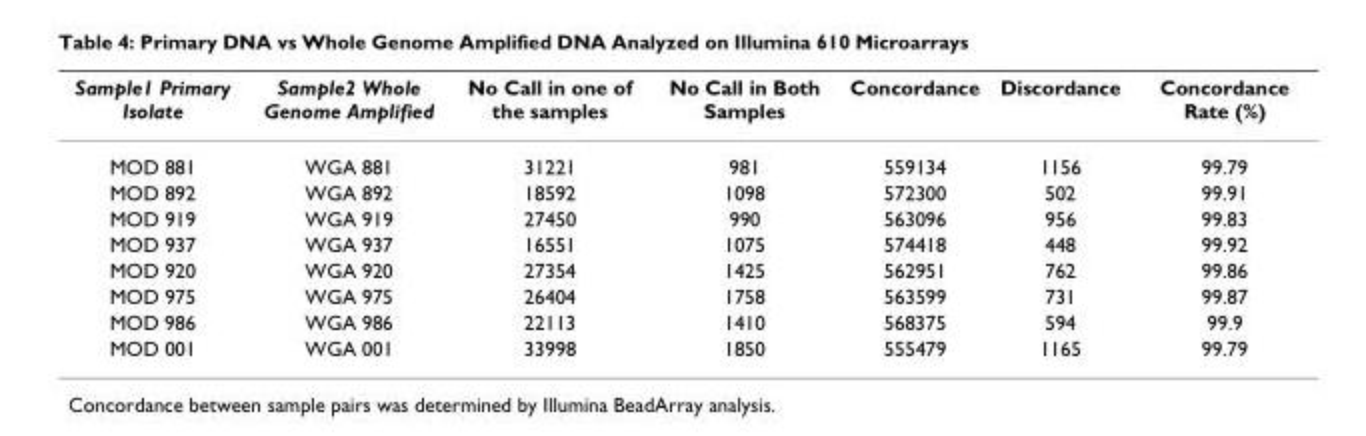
<table><thead><tr><td>Sample1 Primary Isolate</td><td>Sample2 Whole Genome Amplified</td><td>No Call in one of the samples</td><td>No Call in Both Samples</td><td>Concordance</td><td>Discordance</td><td>Concordance Rate (%)</td></tr></thead><tbody><tr><td>MOD 881</td><td>WGA 881</td><td>31221</td><td>981</td><td>559134</td><td>1156</td><td>99.79</td></tr><tr><td>MOD 892</td><td>WGA 892</td><td>18592</td><td>1098</td><td>572300</td><td>502</td><td>99.91</td></tr><tr><td>MOD 919</td><td>WGA 919</td><td>27450</td><td>990</td><td>563096</td><td>956</td><td>99.83</td></tr><tr><td>MOD 937</td><td>WGA 937</td><td>16551</td><td>1075</td><td>574418</td><td>448</td><td>99.92</td></tr><tr><td>MOD 920</td><td>WGA 920</td><td>27354</td><td>1425</td><td>562951</td><td>762</td><td>99.86</td></tr><tr><td>MOD 975</td><td>WGA 975</td><td>26404</td><td>1758</td><td>563599</td><td>731</td><td>99.87</td></tr><tr><td>MOD 986</td><td>WGA 986</td><td>22113</td><td>1410</td><td>568375</td><td>594</td><td>99.9</td></tr><tr><td>MOD 001</td><td>WGA 001</td><td>33998</td><td>1850</td><td>555479</td><td>1165</td><td>99.79</td></tr></tbody></table>